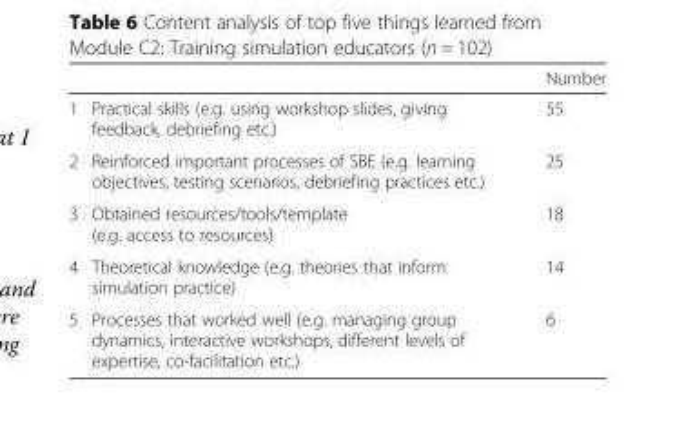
<table><thead><tr><td></td><td></td><td>Number</td></tr></thead><tbody><tr><td>1</td><td>Practical skills (e.g. using workshop slides, giving feedback, debriefing etc.)</td><td>55</td></tr><tr><td>2</td><td>Reinforced important processes of SBE (e.g. learning objectives, testing scenarios, debriefing practices etc.)</td><td>25</td></tr><tr><td>3</td><td>Obtained resources/tools/template (e.g. access to resources)</td><td>18</td></tr><tr><td>4</td><td>Theoretical knowledge (e.g. theories that inform simulation practice)</td><td>14</td></tr><tr><td>5</td><td>Processes that worked well (e.g. managing group dynamics, interactive workshops, different levels of expertise, co-facilitation etc.)</td><td>6</td></tr></tbody></table>